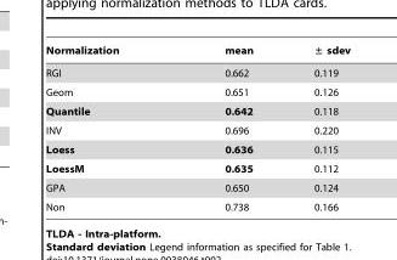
<table><thead><tr><td>Normalization</td><td>mean</td><td>± sdev</td></tr></thead><tbody><tr><td>RGI</td><td>0.662</td><td>0.119</td></tr><tr><td>Geom</td><td>0.651</td><td>0.126</td></tr><tr><td>Quantile</td><td>0.642</td><td>0.118</td></tr><tr><td>INV</td><td>0.696</td><td>0.220</td></tr><tr><td>Loess</td><td>0.636</td><td>0.115</td></tr><tr><td>LoessM</td><td>0.635</td><td>0.112</td></tr><tr><td>GPA</td><td>0.650</td><td>0.124</td></tr><tr><td>Non</td><td>0.738</td><td>0.166</td></tr></tbody></table>